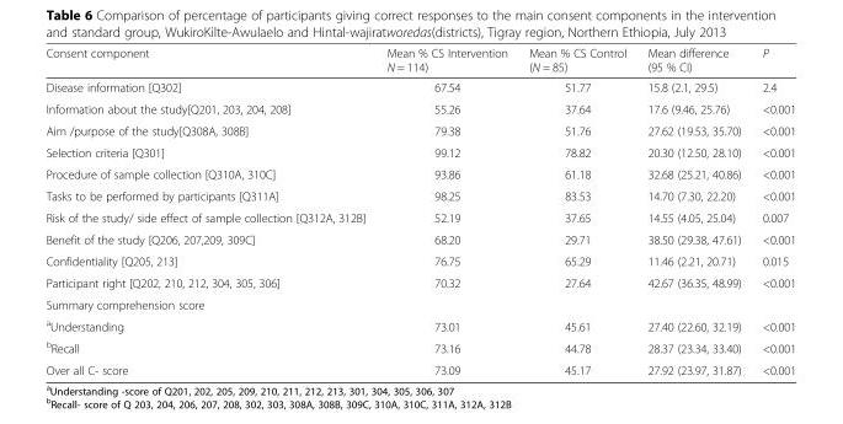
<table><thead><tr><td>Consent component</td><td>Mean % CS Intervention N = 114)</td><td>Mean % CS Control (N = 85)</td><td>Mean difference (95 % CI)</td><td>P</td></tr></thead><tbody><tr><td>Disease information [Q302]</td><td>67.54</td><td>51.77</td><td>15.8 (2.1, 29.5)</td><td>2.4</td></tr><tr><td>Information about the study[Q201, 203, 204, 208]</td><td>55.26</td><td>37.64</td><td>17.6 (9.46, 25.76)</td><td>&lt;0.001</td></tr><tr><td>Aim /purpose of the study[Q308A, 308B]</td><td>79.38</td><td>51.76</td><td>27.62 (19.53, 35.70)</td><td>&lt;0.001</td></tr><tr><td>Selection criteria [Q301]</td><td>99.12</td><td>78.82</td><td>20.30 (12.50, 28.10)</td><td>&lt;0.001</td></tr><tr><td>Procedure of sample collection [Q310A, 310C]</td><td>93.86</td><td>61.18</td><td>32.68 (25.21, 40.86)</td><td>&lt;0.001</td></tr><tr><td>Tasks to be performed by participants [Q311A]</td><td>98.25</td><td>83.53</td><td>14.70 (7.30, 22.20)</td><td>&lt;0.001</td></tr><tr><td>Risk of the study/ side effect of sample collection [Q312A, 312B]</td><td>52.19</td><td>37.65</td><td>14.55 (4.05, 25.04)</td><td>0.007</td></tr><tr><td>Benefit of the study [Q206, 207,209, 309C]</td><td>68.20</td><td>29.71</td><td>38.50 (29.38, 47.61)</td><td>&lt;0.001</td></tr><tr><td>Confidentiality [Q205, 213]</td><td>76.75</td><td>65.29</td><td>11.46 (2.21, 20.71)</td><td>0.015</td></tr><tr><td>Participant right [Q202, 210, 212, 304, 305, 306]</td><td>70.32</td><td>27.64</td><td>42.67 (36.35, 48.99)</td><td>&lt;0.001</td></tr><tr><td colspan="5">Summary comprehension score</td></tr><tr><td><sup>a</sup>Understanding</td><td>73.01</td><td>45.61</td><td>27.40 (22.60, 32.19)</td><td>&lt;0.001</td></tr><tr><td><sup>b</sup>Recall</td><td>73.16</td><td>44.78</td><td>28.37 (23.34, 33.40)</td><td>&lt;0.001</td></tr><tr><td>Over all C- score</td><td>73.09</td><td>45.17</td><td>27.92 (23.97, 31.87)</td><td>&lt;0.001</td></tr></tbody></table>